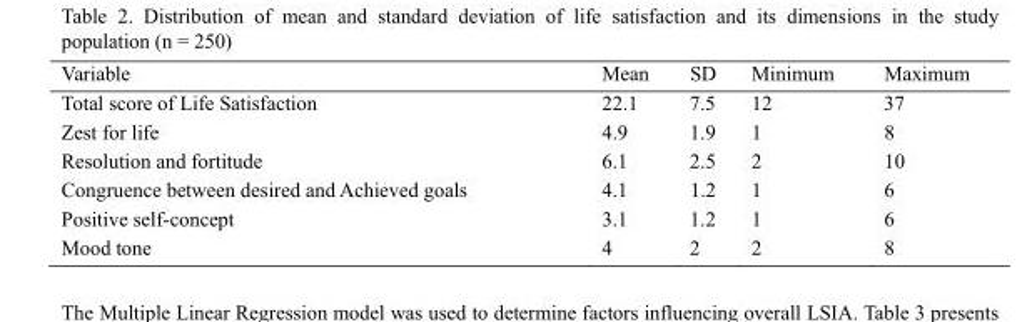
<table><thead><tr><td>Variable</td><td>Mean</td><td>SD</td><td>Minimum</td><td>Maximum</td></tr></thead><tbody><tr><td>Total score of Life Satisfaction</td><td>22.1</td><td>7.5</td><td>12</td><td>37</td></tr><tr><td>Zest for life</td><td>4.9</td><td>1.9</td><td>1</td><td>8</td></tr><tr><td>Resolution and fortitude</td><td>6.1</td><td>2.5</td><td>2</td><td>10</td></tr><tr><td>Congruence between desired and Achieved goals</td><td>4.1</td><td>1.2</td><td>1</td><td>6</td></tr><tr><td>Positive self-concept</td><td>3.1</td><td>1.2</td><td>1</td><td>6</td></tr><tr><td>Mood tone</td><td>4</td><td>2</td><td>2</td><td>8</td></tr></tbody></table>